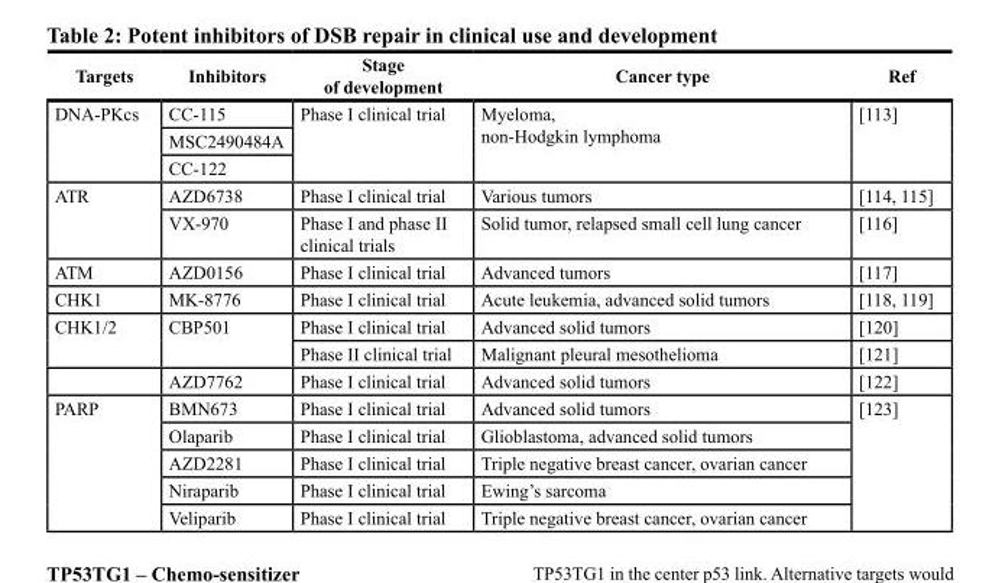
<table><thead><tr><td>Targets</td><td>Inhibitors</td><td>Stage of development</td><td>Cancer type</td><td>Ref</td></tr></thead><tbody><tr><td rowspan="3">DNA-PKcs</td><td>CC-115</td><td rowspan="3">Phase I clinical trial</td><td rowspan="3">Myeloma, non-Hodgkin lymphoma</td><td rowspan="3">[113]</td></tr><tr><td>MSC2490484A</td></tr><tr><td>CC-122</td></tr><tr><td rowspan="2">ATR</td><td>AZD6738</td><td>Phase I clinical trial</td><td>Various tumors</td><td>[114, 115]</td></tr><tr><td>VX-970</td><td>Phase I and phase II clinical trials</td><td>Solid tumor, relapsed small cell lung cancer</td><td>[116]</td></tr><tr><td>ATM</td><td>AZD0156</td><td>Phase I clinical trial</td><td>Advanced tumors</td><td>[117]</td></tr><tr><td>CHK1</td><td>MK-8776</td><td>Phase I clinical trial</td><td>Acute leukemia, advanced solid tumors</td><td>[118, 119]</td></tr><tr><td rowspan="3">CHK1/2</td><td rowspan="2">CBP501</td><td>Phase I clinical trial</td><td>Advanced solid tumors</td><td>[120]</td></tr><tr><td>Phase II clinical trial</td><td>Malignant pleural mesothelioma</td><td>[121]</td></tr><tr><td>AZD7762</td><td>Phase I clinical trial</td><td>Advanced solid tumors</td><td>[122]</td></tr><tr><td rowspan="5">PARP</td><td>BMN673</td><td>Phase I clinical trial</td><td>Advanced solid tumors</td><td rowspan="5">[123]</td></tr><tr><td>Olaparib</td><td>Phase I clinical trial</td><td>Glioblastoma, advanced solid tumors</td></tr><tr><td>AZD2281</td><td>Phase I clinical trial</td><td>Triple negative breast cancer, ovarian cancer</td></tr><tr><td>Niraparib</td><td>Phase I clinical trial</td><td>Ewing’s sarcoma</td></tr><tr><td>Veliparib</td><td>Phase I clinical trial</td><td>Triple negative breast cancer, ovarian cancer</td></tr></tbody></table>